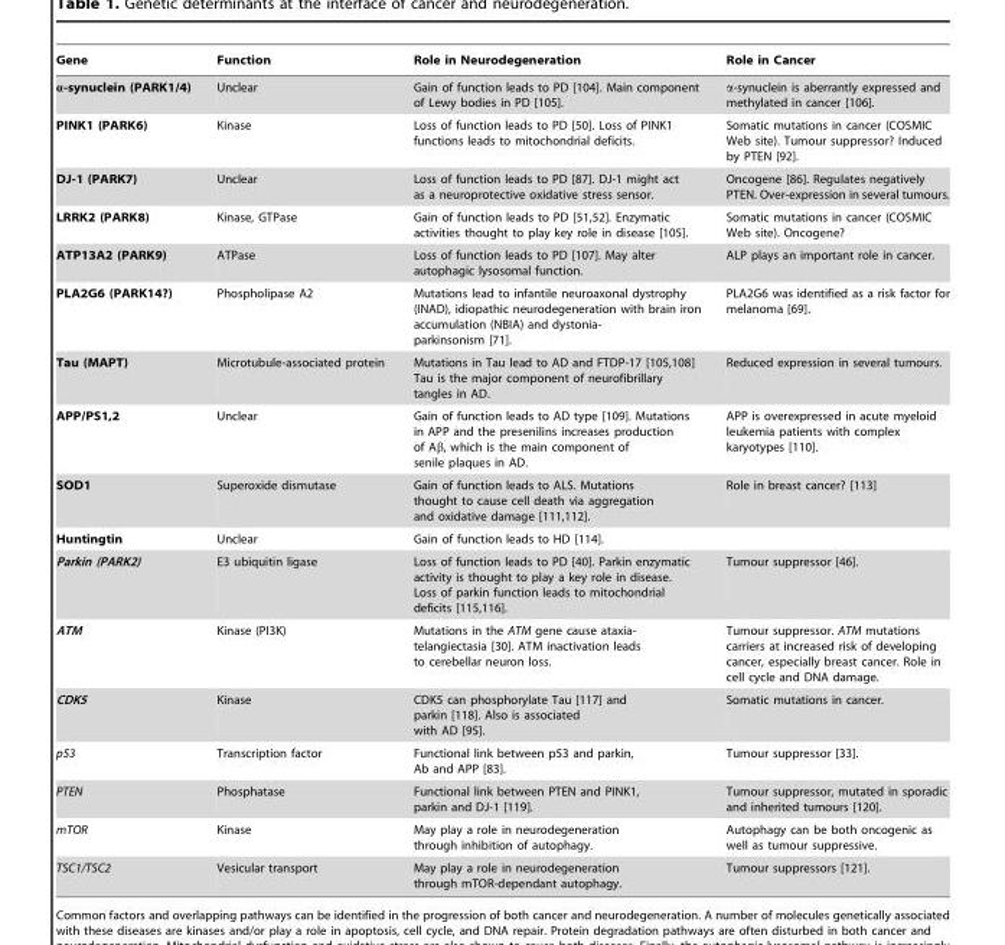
<table><thead><tr><td>Gene</td><td>Function</td><td>Role in Neurodegeneration</td><td>Role in Cancer</td></tr></thead><tbody><tr><td>α-synuclein (PARK1/4)</td><td>Unclear</td><td>Gain of function leads to PD [104]. Main component of Lewy bodies in PD [105].</td><td>α-synuclein is aberrantly expressed and methylated in cancer [106].</td></tr><tr><td>PINK1 (PARK6)</td><td>Kinase</td><td>Loss of function leads to PD [50]. Loss of PINK1 functions leads to mitochondrial deficits.</td><td>Somatic mutations in cancer (COSMIC Web site). Tumour suppressor? Induced by PTEN [92].</td></tr><tr><td>DJ-1 (PARK7)</td><td>Unclear</td><td>Loss of function leads to PD [87]. DJ-1 might act as a neuroprotective oxidative stress sensor.</td><td>Oncogene [86]. Regulates negatively PTEN. Over-expression in several tumours.</td></tr><tr><td>LRRK2 (PARK8)</td><td>Kinase, GTPase</td><td>Gain of function leads to PD [51,52]. Enzymatic activities thought to play key role in disease [105].</td><td>Somatic mutations in cancer (COSMIC Web site). Oncogene?</td></tr><tr><td>ATP13A2 (PARK9)</td><td>ATPase</td><td>Loss of function leads to PD [107]. May alter autophagic lysosomal function.</td><td>ALP plays an important role in cancer.</td></tr><tr><td>PLA2G6 (PARK14?)</td><td>Phospholipase A2</td><td>Mutations lead to infantile neuroaxonal dystrophy (INAD), idiopathic neurodegeneration with brain iron accumulation (NBIA) and dystonia- parkinsonism [71].</td><td>PLA2G6 was identified as a risk factor for melanoma [69].</td></tr><tr><td>Tau (MAPT)</td><td>Microtubule-associated protein</td><td>Mutations in Tau lead to AD and FTDP-17 [105,108] Tau is the major component of neurofibrillary tangles in AD.</td><td>Reduced expression in several tumours.</td></tr><tr><td>APP/PS1,2</td><td>Unclear</td><td>Gain of function leads to AD type [109]. Mutations in APP and the presenilins increases production of Aβ, which is the main component of senile plaques in AD.</td><td>APP is overexpressed in acute myeloid leukemia patients with complex karyotypes [110].</td></tr><tr><td>SOD1</td><td>Superoxide dismutase</td><td>Gain of function leads to ALS. Mutations thought to cause cell death via aggregation and oxidative damage [111,112].</td><td>Role in breast cancer? [113]</td></tr><tr><td>Huntingtin</td><td>Unclear</td><td>Gain of function leads to HD [114].</td><td></td></tr><tr><td>Parkin (PARK2)</td><td>E3 ubiquitin ligase</td><td>Loss of function leads to PD [40]. Parkin enzymatic activity is thought to play a key role in disease. Loss of parkin function leads to mitochondrial deficits [115,116].</td><td>Tumour suppressor [46].</td></tr><tr><td>ATM</td><td>Kinase (PI3K)</td><td>Mutations in the ATM gene cause ataxia- telangiectasia [30]. ATM inactivation leads to cerebellar neuron loss.</td><td>Tumour suppressor. ATM mutations carriers at increased risk of developing cancer, especially breast cancer. Role in cell cycle and DNA damage.</td></tr><tr><td>CDK5</td><td>Kinase</td><td>CDK5 can phosphorylate Tau [117] and parkin [118]. Also is associated with AD [95].</td><td>Somatic mutations in cancer.</td></tr><tr><td>p53</td><td>Transcription factor</td><td>Functional link between p53 and parkin, Ab and APP [83].</td><td>Tumour suppressor [33].</td></tr><tr><td>PTEN</td><td>Phosphatase</td><td>Functional link between PTEN and PINK1, parkin and DJ-1 [119].</td><td>Tumour suppressor, mutated in sporadic and inherited tumours [120].</td></tr><tr><td>mTOR</td><td>Kinase</td><td>May play a role in neurodegeneration through inhibition of autophagy.</td><td>Autophagy can be both oncogenic as well as tumour suppressive.</td></tr><tr><td>TSC1/TSC2</td><td>Vesicular transport</td><td>May play a role in neurodegeneration through mTOR-dependant autophagy.</td><td>Tumour suppressors [121].</td></tr></tbody></table>